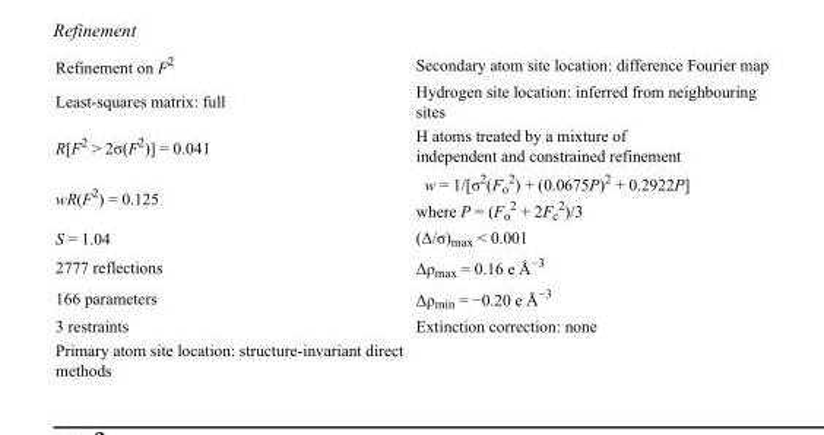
<table><tbody><tr><td>Refinement on F<sup>2</sup></td><td>Secondary atom site location: difference Fourier map</td></tr><tr><td>Least-squares matrix: full</td><td>Hydrogen site location: inferred from neighbouring sites</td></tr><tr><td>R[F<sup>2</sup> &gt; 2σ(F<sup>2</sup>)] = 0.041</td><td>H atoms treated by a mixture of independent and constrained refinement</td></tr><tr><td>wR(F<sup>2</sup>) = 0.125</td><td>w = 1/[σ<sup>2</sup>(F<sub>o</sub> <sup>2</sup>) + (0.0675P)<sup>2</sup> + 0.2922P] where P = (F<sub>o</sub> <sup>2</sup> + 2F<sub>c</sub> <sup>2</sup>)/3</td></tr><tr><td>S = 1.04</td><td>(Δ/σ)<sub>max</sub> &lt; 0.001</td></tr><tr><td>2777 reflections</td><td>Δρ<sub>max</sub> = 0.16 e Å<sup>−3</sup></td></tr><tr><td>166 parameters</td><td>Δρ<sub>min</sub> = −0.20 e Å<sup>−3</sup></td></tr><tr><td>3 restraints</td><td>Extinction correction: none</td></tr><tr><td>Primary atom site location: structure-invariant direct methods</td><td></td></tr></tbody></table>